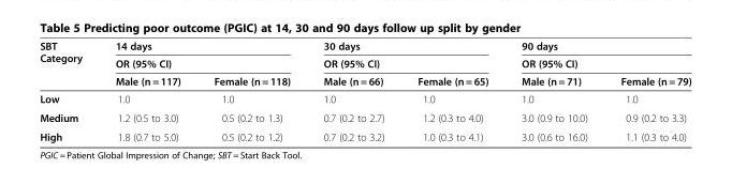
<table><thead><tr><td rowspan="3">SBT Category</td><td rowspan="2" colspan="2">14 days OR (95% CI)</td><td rowspan="2" colspan="2">30 days OR (95% CI)</td><td rowspan="2" colspan="2">90 days OR (95% CI)</td></tr><tr></tr><tr><td>Male (n = 117)</td><td>Female (n = 118)</td><td>Male (n = 66)</td><td>Female (n = 65)</td><td>Male (n = 71)</td><td>Female (n = 79)</td></tr></thead><tbody><tr><td>Low</td><td>1.0</td><td>1.0</td><td>1.0</td><td>1.0</td><td>1.0</td><td>1.0</td></tr><tr><td>Medium</td><td>1.2 (0.5 to 3.0)</td><td>0.5 (0.2 to 1.3)</td><td>0.7 (0.2 to 2.7)</td><td>1.2 (0.3 to 4.0)</td><td>3.0 (0.9 to 10.0)</td><td>0.9 (0.2 to 3.3)</td></tr><tr><td>High</td><td>1.8 (0.7 to 5.0)</td><td>0.5 (0.2 to 1.2)</td><td>0.7 (0.2 to 3.2)</td><td>1.0 (0.3 to 4.1)</td><td>3.0 (0.6 to 16.0)</td><td>1.1 (0.3 to 4.0)</td></tr></tbody></table>